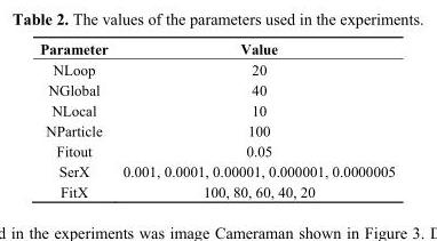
<table><thead><tr><td>Parameter</td><td>Value</td></tr></thead><tbody><tr><td>NLoop</td><td>20</td></tr><tr><td>NGlobal</td><td>40</td></tr><tr><td>NLocal</td><td>10</td></tr><tr><td>NParticle</td><td>100</td></tr><tr><td>Fitout</td><td>0.05</td></tr><tr><td>SerX</td><td>0.001, 0.0001, 0.00001, 0.000001, 0.0000005</td></tr><tr><td>FitX</td><td>100, 80, 60, 40, 20</td></tr></tbody></table>